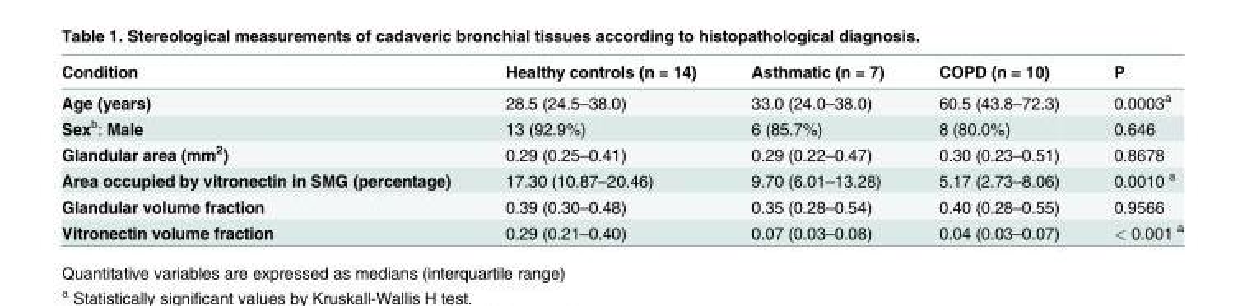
<table><thead><tr><td>Condition</td><td>Healthy controls (n = 14)</td><td>Asthmatic (n = 7)</td><td>COPD (n = 10)</td><td>P</td></tr></thead><tbody><tr><td>Age (years)</td><td>28.5 (24.5–38.0)</td><td>33.0 (24.0–38.0)</td><td>60.5 (43.8–72.3)</td><td>0.0003<sup>a</sup></td></tr><tr><td>Sex<sup>b</sup>: Male</td><td>13 (92.9%)</td><td>6 (85.7%)</td><td>8 (80.0%)</td><td>0.646</td></tr><tr><td>Glandular area (mm<sup>2</sup>)</td><td>0.29 (0.25–0.41)</td><td>0.29 (0.22–0.47)</td><td>0.30 (0.23–0.51)</td><td>0.8678</td></tr><tr><td>Area occupied by vitronectin in SMG (percentage)</td><td>17.30 (10.87–20.46)</td><td>9.70 (6.01–13.28)</td><td>5.17 (2.73–8.06)</td><td>0.0010 <sup>a</sup></td></tr><tr><td>Glandular volume fraction</td><td>0.39 (0.30–0.48)</td><td>0.35 (0.28–0.54)</td><td>0.40 (0.28–0.55)</td><td>0.9566</td></tr><tr><td>Vitronectin volume fraction</td><td>0.29 (0.21–0.40)</td><td>0.07 (0.03–0.08)</td><td>0.04 (0.03–0.07)</td><td>&lt; 0.001</td></tr></tbody></table>